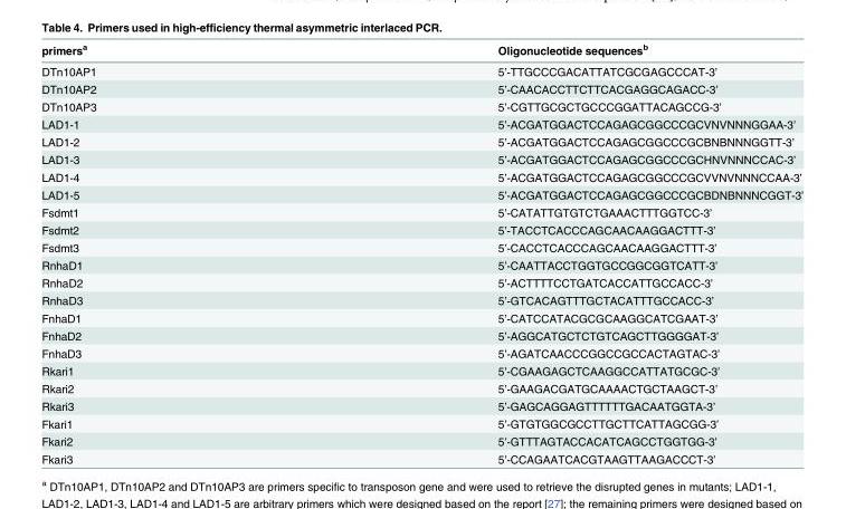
<table><thead><tr><td>primers<sup>a</sup></td><td>Oligonucleotide sequences<sup>b</sup></td></tr></thead><tbody><tr><td>DTn10AP1</td><td>5’-TTGCCCGACATTATCGCGAGCCCAT-3’</td></tr><tr><td>DTn10AP2</td><td>5’-CAACACCTTCTTCACGAGGCAGACC-3’</td></tr><tr><td>DTn10AP3</td><td>5’-CGTTGCGCTGCCCGGATTACAGCCG-3’</td></tr><tr><td>LAD1-1</td><td>5’-ACGATGGACTCCAGAGCGGCCCGCVNVNNNGGAA-3’</td></tr><tr><td>LAD1-2</td><td>5’-ACGATGGACTCCAGAGCGGCCCGCBNBNNNGGTT-3’</td></tr><tr><td>LAD1-3</td><td>5’-ACGATGGACTCCAGAGCGGCCCGCHNVNNNCCAC-3’</td></tr><tr><td>LAD1-4</td><td>5’-ACGATGGACTCCAGAGCGGCCCGCVVNVNNNCCAA-3’</td></tr><tr><td>LAD1-5</td><td>5’-ACGATGGACTCCAGAGCGGCCCGCBDNBNNNCGGT-3’</td></tr><tr><td>Fsdmt1</td><td>5’-CATATTGTGTCTGAAACTTTGGTCC-3’</td></tr><tr><td>Fsdmt2</td><td>5’-TACCTCACCCAGCAACAAGGACTTT-3’</td></tr><tr><td>Fsdmt3</td><td>5’-CACCTCACCCAGCAACAAGGACTTT-3’</td></tr><tr><td>RnhaD1</td><td>5’-CAATTACCTGGTGCCGGCGGTCATT-3’</td></tr><tr><td>RnhaD2</td><td>5’-ACTTTTCCTGATCACCATTGCCACC-3’</td></tr><tr><td>RnhaD3</td><td>5’-GTCACAGTTTGCTACATTTGCCACC-3’</td></tr><tr><td>FnhaD1</td><td>5’-CATCCATACGCGCAAGGCATCGAAT-3’</td></tr><tr><td>FnhaD2</td><td>5’-AGGCATGCTCTGTCAGCTTGGGGAT-3’</td></tr><tr><td>FnhaD3</td><td>5’-AGATCAACCCGGCCGCCACTAGTAC-3’</td></tr><tr><td>Rkari1</td><td>5’-CGAAGAGCTCAAGGCCATTATGCGC-3’</td></tr><tr><td>Rkari2</td><td>5’-GAAGACGATGCAAAACTGCTAAGCT-3’</td></tr><tr><td>Rkari3</td><td>5’-GAGCAGGAGTTTTTTGACAATGGTA-3’</td></tr><tr><td>Fkari1</td><td>5’-GTGTGGCGCCTTGCTTCATTAGCGG-3’</td></tr><tr><td>Fkari2</td><td>5’-GTTTAGTACCACATCAGCCTGGTGG-3’</td></tr><tr><td>Fkari3</td><td>5’-CCAGAATCACGTAAGTTAAGACCCT-3’</td></tr></tbody></table>